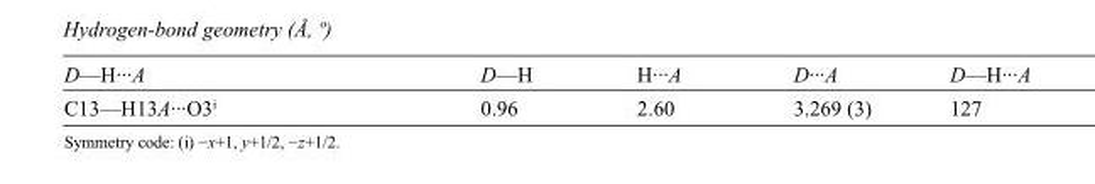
<table><tbody><tr><td>D—H···A</td><td>D—H</td><td>H···A</td><td>D···A</td><td>D—H···A</td></tr><tr><td>C13—H13A···O3<sup>i</sup></td><td>0.96</td><td>2.60</td><td>3.269 (3)</td><td>127</td></tr></tbody></table>